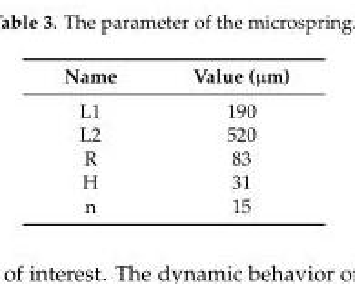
<table><thead><tr><td>Name</td><td>Value (µm)</td></tr></thead><tbody><tr><td>L1</td><td>190</td></tr><tr><td>L2</td><td>520</td></tr><tr><td>R</td><td>83</td></tr><tr><td>H</td><td>31</td></tr><tr><td>n</td><td>15</td></tr></tbody></table>